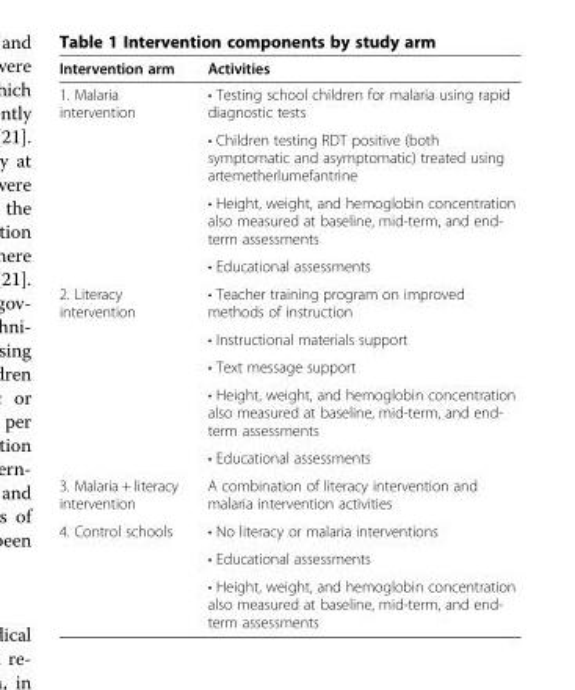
<table><thead><tr><td>Intervention arm</td><td>Activities</td></tr></thead><tbody><tr><td rowspan="4">1. Malaria intervention</td><td>• Testing school children for malaria using rapid diagnostic tests</td></tr><tr><td>• Children testing RDT positive (both symptomatic and asymptomatic) treated using artemetherlumefantrine</td></tr><tr><td>• Height, weight, and hemoglobin concentration also measured at baseline, mid-term, and end- term assessments</td></tr><tr><td>• Educational assessments</td></tr><tr><td rowspan="5">2. Literacy intervention</td><td>• Teacher training program on improved methods of instruction</td></tr><tr><td>• Instructional materials support</td></tr><tr><td>• Text message support</td></tr><tr><td>• Height, weight, and hemoglobin concentration also measured at baseline, mid-term, and end- term assessments</td></tr><tr><td>• Educational assessments</td></tr><tr><td>3. Malaria + literacy intervention</td><td>A combination of literacy intervention and malaria intervention activities</td></tr><tr><td rowspan="3">4. Control schools</td><td>• No literacy or malaria interventions</td></tr><tr><td>• Educational assessments</td></tr><tr><td>• Height, weight, and hemoglobin concentration also measured at baseline, mid-term, and end- term assessments</td></tr></tbody></table>